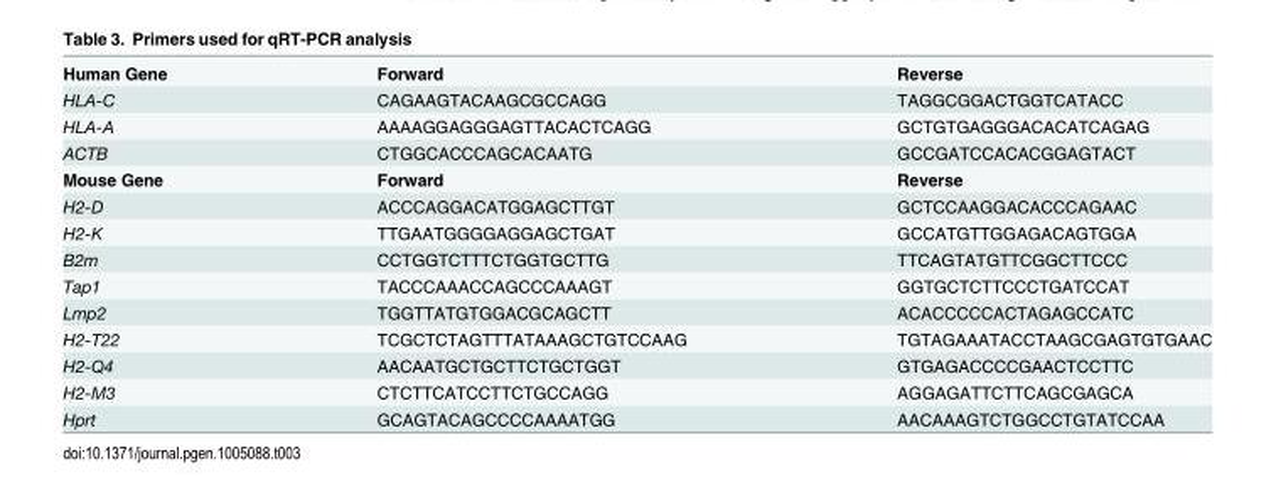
<table><tbody><tr><td>Human Gene</td><td>Forward</td><td>Reverse</td></tr><tr><td>HLA-C</td><td>CAGAAGTACAAGCGCCAGG</td><td>TAGGCGGACTGGTCATACC</td></tr><tr><td>HLA-A</td><td>AAAAGGAGGGAGTTACACTCAGG</td><td>GCTGTGAGGGACACATCAGAG</td></tr><tr><td>ACTB</td><td>CTGGCACCCAGCACAATG</td><td>GCCGATCCACACGGAGTACT</td></tr><tr><td>Mouse Gene</td><td>Forward</td><td>Reverse</td></tr><tr><td>H2-D</td><td>ACCCAGGACATGGAGCTTGT</td><td>GCTCCAAGGACACCCAGAAC</td></tr><tr><td>H2-K</td><td>TTGAATGGGGAGGAGCTGAT</td><td>GCCATGTTGGAGACAGTGGA</td></tr><tr><td>B2m</td><td>CCTGGTCTTTCTGGTGCTTG</td><td>TTCAGTATGTTCGGCTTCCC</td></tr><tr><td>Tap1</td><td>TACCCAAACCAGCCCAAAGT</td><td>GGTGCTCTTCCCTGATCCAT</td></tr><tr><td>Lmp2</td><td>TGGTTATGTGGACGCAGCTT</td><td>ACACCCCCACTAGAGCCATC</td></tr><tr><td>H2-T22</td><td>TCGCTCTAGTTTATAAAGCTGTCCAAG</td><td>TGTAGAAATACCTAAGCGAGTGTGAAC</td></tr><tr><td>H2-Q4</td><td>AACAATGCTGCTTCTGCTGGT</td><td>GTGAGACCCCGAACTCCTTC</td></tr><tr><td>H2-M3</td><td>CTCTTCATCCTTCTGCCAGG</td><td>AGGAGATTCTTCAGCGAGCA</td></tr><tr><td>Hprt</td><td>GCAGTACAGCCCCAAAATGG</td><td>AACAAAGTCTGGCCTGTATCCAA</td></tr></tbody></table>